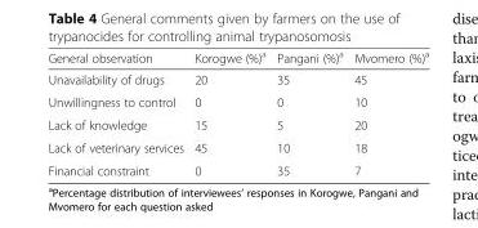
<table><thead><tr><td>General observation</td><td>Korogwe (%)<sup>a</sup></td><td>Pangani (%)<sup>a</sup></td><td>Mvomero (%)<sup>a</sup></td></tr></thead><tbody><tr><td>Unavailability of drugs</td><td>20</td><td>35</td><td>45</td></tr><tr><td>Unwillingness to control</td><td>0</td><td>0</td><td>10</td></tr><tr><td>Lack of knowledge</td><td>15</td><td>5</td><td>20</td></tr><tr><td>Lack of veterinary services</td><td>45</td><td>10</td><td>18</td></tr><tr><td>Financial constraint</td><td>0</td><td>35</td><td>7</td></tr></tbody></table>